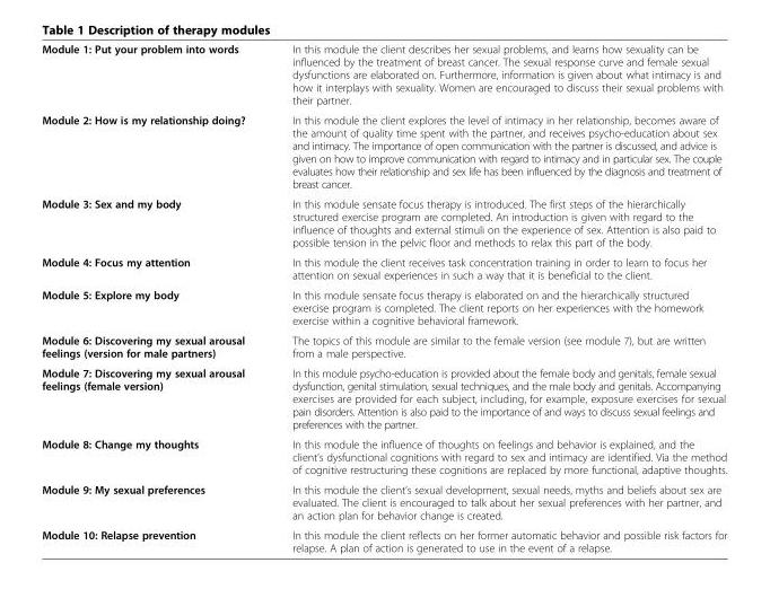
<table><tbody><tr><td>Module 1: Put your problem into words</td><td>In this module the client describes her sexual problems, and learns how sexuality can be influenced by the treatment of breast cancer. The sexual response curve and female sexual dysfunctions are elaborated on. Furthermore, information is given about what intimacy is and how it interplays with sexuality. Women are encouraged to discuss their sexual problems with their partner.</td></tr><tr><td>Module 2: How is my relationship doing?</td><td>In this module the client explores the level of intimacy in her relationship, becomes aware of the amount of quality time spent with the partner, and receives psycho-education about sex and intimacy. The importance of open communication with the partner is discussed, and advice is given on how to improve communication with regard to intimacy and in particular sex. The couple evaluates how their relationship and sex life has been influenced by the diagnosis and treatment of breast cancer.</td></tr><tr><td>Module 3: Sex and my body</td><td>In this module sensate focus therapy is introduced. The first steps of the hierarchically structured exercise program are completed. An introduction is given with regard to the influence of thoughts and external stimuli on the experience of sex. Attention is also paid to possible tension in the pelvic floor and methods to relax this part of the body.</td></tr><tr><td>Module 4: Focus my attention</td><td>In this module the client receives task concentration training in order to learn to focus her attention on sexual experiences in such a way that it is beneficial to the client.</td></tr><tr><td>Module 5: Explore my body</td><td>In this module sensate focus therapy is elaborated on and the hierarchically structured exercise program is completed. The client reports on her experiences with the homework exercise within a cognitive behavioral framework.</td></tr><tr><td>Module 6: Discovering my sexual arousal feelings (version for male partners)</td><td>The topics of this module are similar to the female version (see module 7), but are written from a male perspective.</td></tr><tr><td>Module 7: Discovering my sexual arousal feelings (female version)</td><td>In this module psycho-education is provided about the female body and genitals, female sexual dysfunction, genital stimulation, sexual techniques, and the male body and genitals. Accompanying exercises are provided for each subject, including, for example, exposure exercises for sexual pain disorders. Attention is also paid to the importance of and ways to discuss sexual feelings and preferences with the partner.</td></tr><tr><td>Module 8: Change my thoughts</td><td>In this module the influence of thoughts on feelings and behavior is explained, and the client’s dysfunctional cognitions with regard to sex and intimacy are identified. Via the method of cognitive restructuring these cognitions are replaced by more functional, adaptive thoughts.</td></tr><tr><td>Module 9: My sexual preferences</td><td>In this module the client’s sexual development, sexual needs, myths and beliefs about sex are evaluated. The client is encouraged to talk about her sexual preferences with her partner, and an action plan for behavior change is created.</td></tr><tr><td>Module 10: Relapse prevention</td><td>In this module the client reflects on her former automatic behavior and possible risk factors for relapse. A plan of action is generated to use in the event of a relapse.</td></tr></tbody></table>